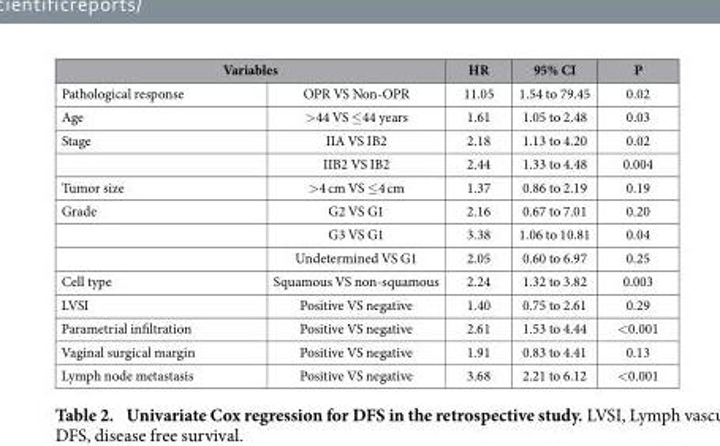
<table><thead><tr><td colspan="2">Variables</td><td rowspan="2">HR 11.05</td><td rowspan="2">95% CI 1.54 to 79.45</td><td rowspan="2">P 0.02</td></tr><tr><td>Pathological response</td><td>OPR VS Non-OPR</td></tr></thead><tbody><tr><td>Age</td><td>&gt; 44 VS ≤ 44 years</td><td>1.61</td><td>1.05 to 2.48</td><td>0.03</td></tr><tr><td rowspan="2">Stage</td><td>IIA VS IB2</td><td>2.18</td><td>1.13 to 4.20</td><td>0.02</td></tr><tr><td>IIB2 VS IB2</td><td>2.44</td><td>1.33 to 4.48</td><td>0.004</td></tr><tr><td>Tumor size</td><td>&gt; 4 cm VS ≤ 4 cm</td><td>1.37</td><td>0.86 to 2.19</td><td>0.19</td></tr><tr><td rowspan="3">Grade</td><td>G2 VS G1</td><td>2.16</td><td>0.67 to 7.01</td><td>0.20</td></tr><tr><td>G3 VS G1</td><td>3.38</td><td>1.06 to 10.81</td><td>0.04</td></tr><tr><td>Undetermined VS G1</td><td>2.05</td><td>0.60 to 6.97</td><td>0.25</td></tr><tr><td>Cell type</td><td>Squamous VS non-squamous</td><td>2.24</td><td>1.32 to 3.82</td><td>0.003</td></tr><tr><td>LVSI</td><td>Positive VS negative</td><td>1.40</td><td>0.75 to 2.61</td><td>0.29</td></tr><tr><td>Parametrial infiltration</td><td>Positive VS negative</td><td>2.61</td><td>1.53 to 4.44</td><td>&lt; 0.001</td></tr><tr><td>Vaginal surgical margin</td><td>Positive VS negative</td><td>1.91</td><td>0.83 to 4.41</td><td>0.13</td></tr><tr><td>Lymph node metastasis</td><td>Positive VS negative</td><td>3.68</td><td>2.21 to 6.12</td><td>&lt; 0.001</td></tr></tbody></table>